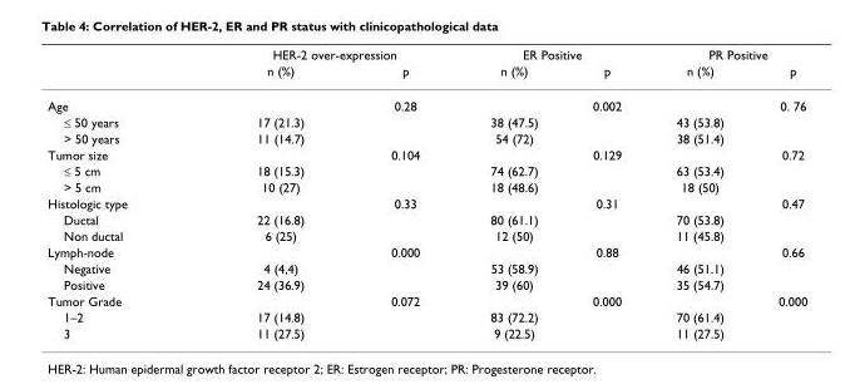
<table><thead><tr><td rowspan="2"></td><td colspan="2">HER-2 over-expression</td><td colspan="2">ER Positive</td><td colspan="2">PR Positive</td></tr><tr><td>n (%)</td><td>p</td><td>n (%)</td><td>p</td><td>n (%)</td><td>p</td></tr></thead><tbody><tr><td>Age</td><td></td><td>0.28</td><td></td><td>0.002</td><td></td><td>0. 76</td></tr><tr><td>≤ 50 years</td><td>17 (21.3)</td><td></td><td>38 (47.5)</td><td></td><td>43 (53.8)</td><td></td></tr><tr><td>&gt; 50 years</td><td>11 (14.7)</td><td></td><td>54 (72)</td><td></td><td>38 (51.4)</td><td></td></tr><tr><td>Tumor size</td><td></td><td>0.104</td><td></td><td>0.129</td><td></td><td>0.72</td></tr><tr><td>≤ 5 cm</td><td>18 (15.3)</td><td></td><td>74 (62.7)</td><td></td><td>63 (53.4)</td><td></td></tr><tr><td>&gt; 5 cm</td><td>10 (27)</td><td></td><td>18 (48.6)</td><td></td><td>18 (50)</td><td></td></tr><tr><td>Histologic type</td><td></td><td>0.33</td><td></td><td>0.31</td><td></td><td>0.47</td></tr><tr><td>Ductal</td><td>22 (16.8)</td><td></td><td>80 (61.1)</td><td></td><td>70 (53.8)</td><td></td></tr><tr><td>Non ductal</td><td>6 (25)</td><td></td><td>12 (50)</td><td></td><td>11 (45.8)</td><td></td></tr><tr><td>Lymph-node</td><td></td><td>0.000</td><td></td><td>0.88</td><td></td><td>0.66</td></tr><tr><td>Negative</td><td>4 (4,4)</td><td></td><td>53 (58.9)</td><td></td><td>46 (51.1)</td><td></td></tr><tr><td>Positive</td><td>24 (36.9)</td><td></td><td>39 (60)</td><td></td><td>35 (54.7)</td><td></td></tr><tr><td>Tumor Grade</td><td></td><td>0.072</td><td></td><td>0.000</td><td></td><td>0.000</td></tr><tr><td>1–2</td><td>17 (14.8)</td><td></td><td>83 (72.2)</td><td></td><td>70 (61.4)</td><td></td></tr><tr><td>3</td><td>11 (27.5)</td><td></td><td>9 (22.5)</td><td></td><td>11 (27.5)</td><td></td></tr></tbody></table>